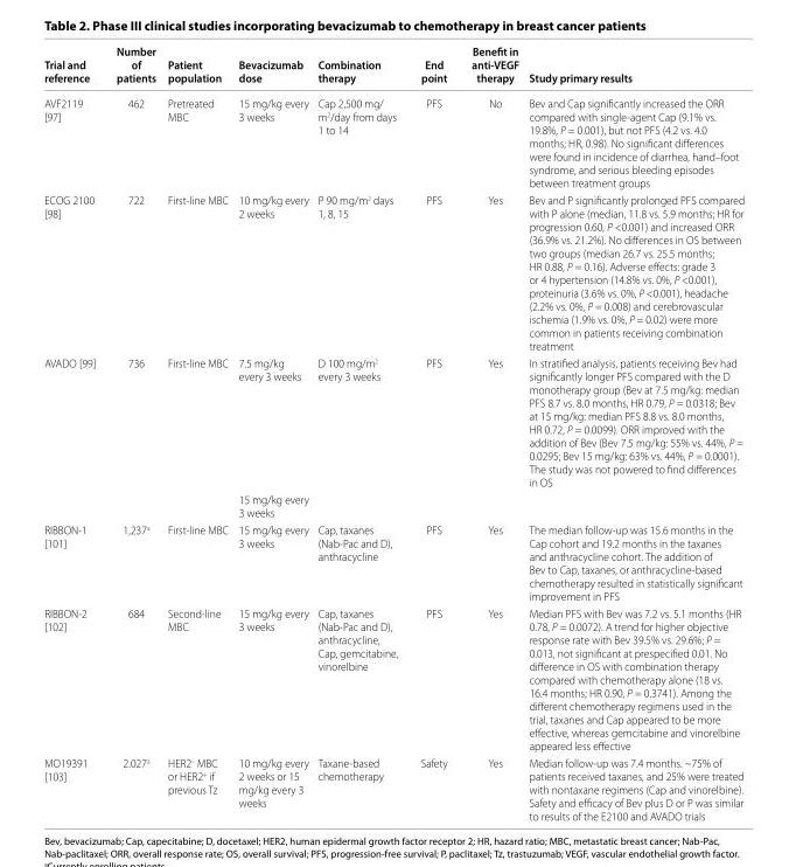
<table><thead><tr><td>Trial and reference</td><td>Number of patients</td><td>Patient population</td><td>Bevacizumab dose</td><td>Combination therapy</td><td>End point</td><td>Benefi t in anti-VEGF therapy</td><td>Study primary results</td></tr></thead><tbody><tr><td>AVF2119 [97]</td><td>462</td><td>Pretreated MBC</td><td>15 mg/kg every 3 weeks</td><td>Cap 2,500 mg/ m<sup>2</sup>/day from days 1 to 14</td><td>PFS</td><td>No</td><td>Bev and Cap signifi cantly increased the ORR compared with single-agent Cap (9.1% vs. 19.8%, P = 0.001), but not PFS (4.2 vs. 4.0 months; HR, 0.98). No signifi cant diff erences were found in incidence of diarrhea, hand–foot syndrome, and serious bleeding episodes between treatment groups</td></tr><tr><td>ECOG 2100 [98]</td><td>722</td><td>First-line MBC</td><td>10 mg/kg every 2 weeks</td><td>P 90 mg/m<sup>2</sup> days 1, 8, 15</td><td>PFS</td><td>Yes</td><td>Bev and P signifi cantly prolonged PFS compared with P alone (median, 11.8 vs. 5.9 months; HR for progression 0.60, P &lt;0.001) and increased ORR (36.9% vs. 21.2%). No diff erences in OS between two groups (median 26.7 vs. 25.5 months; HR 0.88, P = 0.16). Adverse eff ects: grade 3 or 4 hypertension (14.8% vs. 0%, P &lt;0.001), proteinuria (3.6% vs. 0%, P &lt;0.001), headache (2.2% vs. 0%, P = 0.008) and cerebrovascular ischemia (1.9% vs. 0%, P = 0.02) were more common in patients receiving combination treatment</td></tr><tr><td rowspan="2">AVADO [99]</td><td>736</td><td>First-line MBC</td><td>7.5 mg/kg every 3 weeks</td><td>D 100 mg/m<sup>2</sup> every 3 weeks</td><td>PFS</td><td>Yes</td><td>In stratifi ed analysis, patients receiving Bev had signifi cantly longer PFS compared with the D monotherapy group (Bev at 7.5 mg/kg: median PFS 8.7 vs. 8.0 months, HR 0.79, P = 0.0318; Bev at 15 mg/kg: median PFS 8.8 vs. 8.0 months, HR 0.72, P = 0.0099). ORR improved with the addition of Bev (Bev 7.5 mg/kg: 55% vs. 44%, P = 0.0295; Bev 15 mg/kg: 63% vs. 44%, P = 0.0001). The study was not powered to fi nd diff erences in OS</td></tr><tr><td></td><td></td><td>15 mg/kg every 3 weeks</td><td></td><td></td><td></td><td></td></tr><tr><td>RIBBON-1 [101]</td><td>1,237<sup>a</sup></td><td>First-line MBC</td><td>15 mg/kg every 3 weeks</td><td>Cap, taxanes (Nab-Pac and D), anthracycline</td><td>PFS</td><td>Yes</td><td>The median follow-up was 15.6 months in the Cap cohort and 19.2 months in the taxanes and anthracycline cohort. The addition of Bev to Cap, taxanes, or anthracycline-based chemotherapy resulted in statistically signifi cant improvement in PFS</td></tr><tr><td>RIBBON-2 [102]</td><td>684</td><td>Second-line MBC</td><td>15 mg/kg every 3 weeks</td><td>Cap, taxanes (Nab-Pac and D), anthracycline, Cap, gemcitabine, vinorelbine</td><td>PFS</td><td>Yes</td><td>Median PFS with Bev was 7.2 vs. 5.1 months (HR 0.78, P = 0.0072). A trend for higher objective response rate with Bev 39.5% vs. 29.6%; P = 0.013, not signifi cant at prespecifi ed 0.01. No diff erence in OS with combination therapy compared with chemotherapy alone (18 vs. 16.4 months; HR 0.90, P = 0.3741). Among the diff erent chemotherapy regimens used in the trial, taxanes and Cap appeared to be more eff ective, whereas gemcitabine and vinorelbine appeared less eff ective</td></tr><tr><td>MO19391 [103]</td><td>2.027<sup>a</sup></td><td>HER2<sup>–</sup> MBC or HER2<sup>+</sup> if previous Tz</td><td>10 mg/kg every 2 weeks or 15 mg/kg every 3 weeks</td><td>Taxane-based chemotherapy</td><td>Safety</td><td>Yes</td><td>Median follow-up was 7.4 months. ~75% of patients received taxanes, and 25% were treated with nontaxane regimens (Cap and vinorelbine). Safety and effi cacy of Bev plus D or P was similar to results of the E2100 and AVADO trials</td></tr></tbody></table>